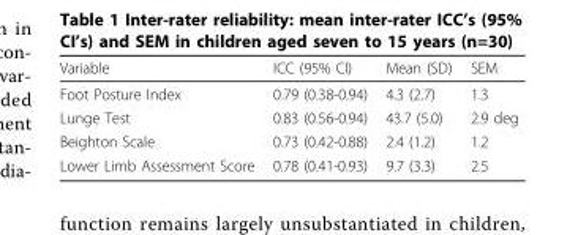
<table><thead><tr><td>Variable</td><td>ICC (95% CI)</td><td>Mean (SD)</td><td>SEM</td></tr></thead><tbody><tr><td>Foot Posture Index</td><td>0.79 (0.38-0.94)</td><td>4.3 (2.7)</td><td>1.3</td></tr><tr><td>Lunge Test</td><td>0.83 (0.56-0.94)</td><td>43.7 (5.0)</td><td>2.9 deg</td></tr><tr><td>Beighton Scale</td><td>0.73 (0.42-0.88)</td><td>2.4 (1.2)</td><td>1.2</td></tr><tr><td>Lower Limb Assessment Score</td><td>0.78 (0.41-0.93)</td><td>9.7 (3.3)</td><td>2.5</td></tr></tbody></table>